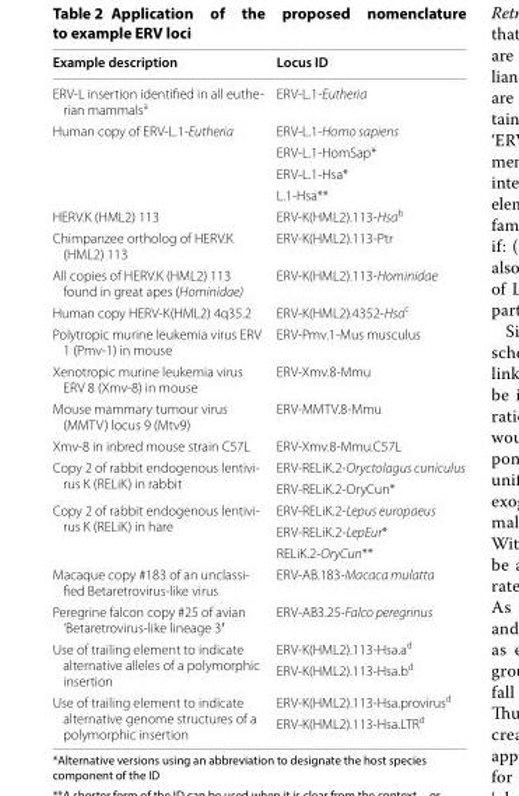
<table><thead><tr><td>Example description</td><td>Locus ID</td></tr></thead><tbody><tr><td>ERV-L insertion identified in all euthe- rian mammalsa</td><td>ERV-L.1-Eutheria</td></tr><tr><td rowspan="4">Human copy of ERV-L.1-Eutheria</td><td>ERV-L.1-Homo sapiens</td></tr><tr><td>ERV-L.1-HomSap*</td></tr><tr><td>ERV-L.1-Hsa*</td></tr><tr><td>L.1-Hsa**</td></tr><tr><td>HERV.K (HML2) 113</td><td>ERV-K(HML2).113-Hsa<sup>b</sup></td></tr><tr><td>Chimpanzee ortholog of HERV.K (HML2) 113</td><td>ERV-K(HML2).113-Ptr</td></tr><tr><td>All copies of HERV.K (HML2) 113 found in great apes (Hominidae)</td><td>ERV-K(HML2).113-Hominidae</td></tr><tr><td>Human copy HERV-K(HML2) 4q35.2</td><td>ERV-K(HML2).4352-Hsa<sup>c</sup></td></tr><tr><td>Polytropic murine leukemia virus ERV 1 (Pmv-1) in mouse</td><td>ERV-Pmv.1-Mus musculus</td></tr><tr><td>Xenotropic murine leukemia virus ERV 8 (Xmv-8) in mouse</td><td>ERV-Xmv.8-Mmu</td></tr><tr><td>Mouse mammary tumour virus (MMTV) locus 9 (Mtv9)</td><td>ERV-MMTV.8-Mmu</td></tr><tr><td>Xmv-8 in inbred mouse strain C57L</td><td>ERV-Xmv.8-Mmu.C57L</td></tr><tr><td rowspan="2">Copy 2 of rabbit endogenous lentivi- rus K (RELiK) in rabbit</td><td>ERV-RELiK.2-Oryctolagus cuniculus</td></tr><tr><td>ERV-RELiK.2-OryCun*</td></tr><tr><td rowspan="3">Copy 2 of rabbit endogenous lentivi- rus K (RELiK) in hare</td><td>ERV-RELiK.2-Lepus europaeus</td></tr><tr><td>ERV-RELiK.2-LepEur*</td></tr><tr><td>RELiK.2-OryCun**</td></tr><tr><td>Macaque copy #183 of an unclassi- fied Betaretrovirus-like virus</td><td>ERV-AB.183-Macaca mulatta</td></tr><tr><td>Peregrine falcon copy #25 of avian ‘Betaretrovirus-like lineage 3′</td><td>ERV-AB3.25-Falco peregrinus</td></tr><tr><td rowspan="2">Use of trailing element to indicate alternative alleles of a polymorphic insertion</td><td>ERV-K(HML2).113-Hsa.a<sup>d</sup></td></tr><tr><td>ERV-K(HML2).113-Hsa.b<sup>d</sup></td></tr><tr><td rowspan="2">Use of trailing element to indicate alternative genome structures of a polymorphic insertion</td><td>ERV-K(HML2).113-Hsa.provirus<sup>d</sup></td></tr><tr><td>ERV-K(HML2).113-Hsa.LTR<sup>d</sup></td></tr></tbody></table>